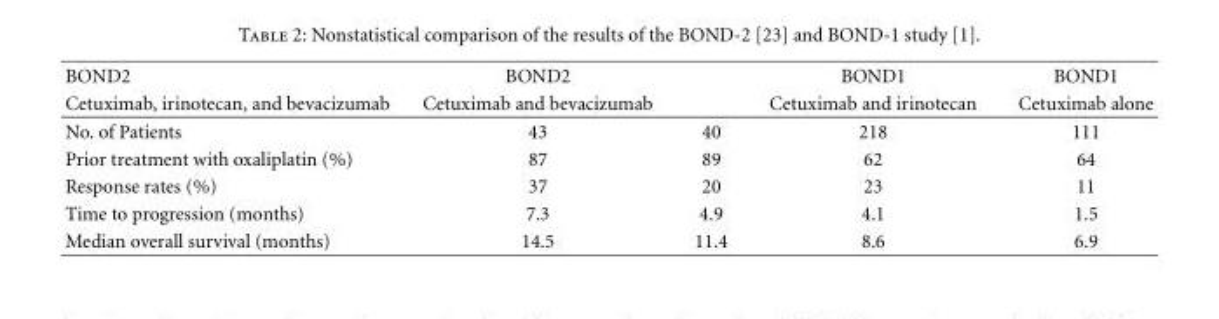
<table><thead><tr><td rowspan="2">BOND2 Cetuximab, irinotecan, and bevacizumab</td><td rowspan="2">BOND2 Cetuximab and bevacizumab</td><td rowspan="2"></td><td rowspan="2">BOND1 Cetuximab and irinotecan</td><td rowspan="2">BOND1 Cetuximab alone</td></tr><tr></tr></thead><tbody><tr><td>No. of Patients</td><td>43</td><td>40</td><td>218</td><td>111</td></tr><tr><td>Prior treatment with oxaliplatin (%)</td><td>87</td><td>89</td><td>62</td><td>64</td></tr><tr><td>Response rates (%)</td><td>37</td><td>20</td><td>23</td><td>11</td></tr><tr><td>Time to progression (months)</td><td>7.3</td><td>4.9</td><td>4.1</td><td>1.5</td></tr><tr><td>Median overall survival (months)</td><td>14.5</td><td>11.4</td><td>8.6</td><td>6.9</td></tr></tbody></table>